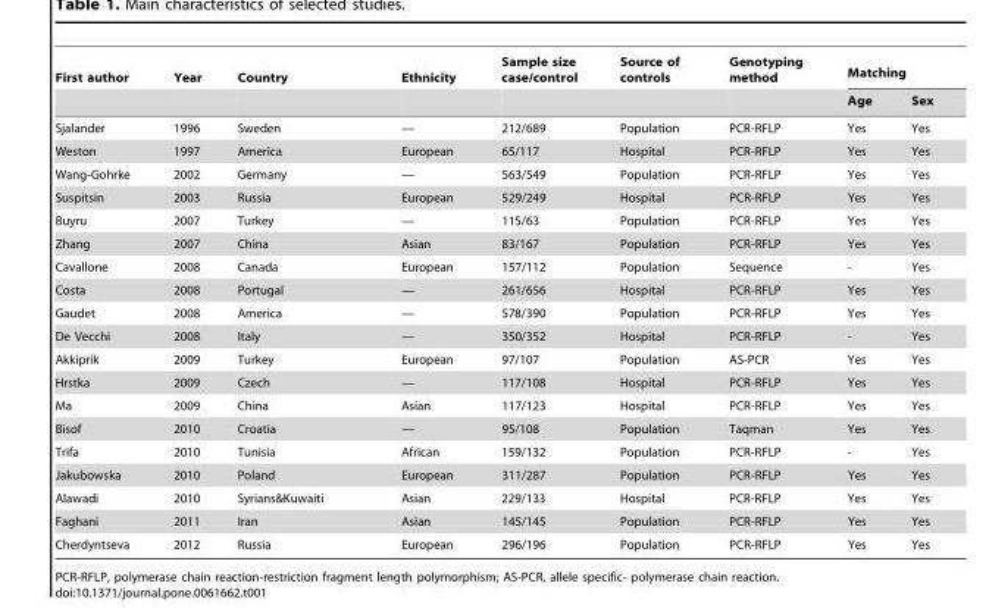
<table><thead><tr><td rowspan="2">First author</td><td rowspan="2">Year</td><td rowspan="2">Country</td><td rowspan="2">Ethnicity</td><td rowspan="2">Sample size case/control</td><td rowspan="2">Source of controls</td><td rowspan="2">Genotyping method</td><td colspan="2">Matching</td></tr><tr><td>Age</td><td>Sex</td></tr></thead><tbody><tr><td>Sjalander</td><td>1996</td><td>Sweden</td><td>—</td><td>212/689</td><td>Population</td><td>PCR-RFLP</td><td>Yes</td><td>Yes</td></tr><tr><td>Weston</td><td>1997</td><td>America</td><td>European</td><td>65/117</td><td>Hospital</td><td>PCR-RFLP</td><td>Yes</td><td>Yes</td></tr><tr><td>Wang-Gohrke</td><td>2002</td><td>Germany</td><td>—</td><td>563/549</td><td>Population</td><td>PCR-RFLP</td><td>Yes</td><td>Yes</td></tr><tr><td>Suspitsin</td><td>2003</td><td>Russia</td><td>European</td><td>529/249</td><td>Hospital</td><td>PCR-RFLP</td><td>Yes</td><td>Yes</td></tr><tr><td>Buyru</td><td>2007</td><td>Turkey</td><td>—</td><td>115/63</td><td>Population</td><td>PCR-RFLP</td><td>Yes</td><td>Yes</td></tr><tr><td>Zhang</td><td>2007</td><td>China</td><td>Asian</td><td>83/167</td><td>Population</td><td>PCR-RFLP</td><td>Yes</td><td>Yes</td></tr><tr><td>Cavallone</td><td>2008</td><td>Canada</td><td>European</td><td>157/112</td><td>Population</td><td>Sequence</td><td>-</td><td>Yes</td></tr><tr><td>Costa</td><td>2008</td><td>Portugal</td><td>—</td><td>261/656</td><td>Hospital</td><td>PCR-RFLP</td><td>Yes</td><td>Yes</td></tr><tr><td>Gaudet</td><td>2008</td><td>America</td><td>—</td><td>578/390</td><td>Population</td><td>PCR-RFLP</td><td>Yes</td><td>Yes</td></tr><tr><td>De Vecchi</td><td>2008</td><td>Italy</td><td>—</td><td>350/352</td><td>Hospital</td><td>PCR-RFLP</td><td>-</td><td>Yes</td></tr><tr><td>Akkiprik</td><td>2009</td><td>Turkey</td><td>European</td><td>97/107</td><td>Population</td><td>AS-PCR</td><td>Yes</td><td>Yes</td></tr><tr><td>Hrstka</td><td>2009</td><td>Czech</td><td>—</td><td>117/108</td><td>Hospital</td><td>PCR-RFLP</td><td>Yes</td><td>Yes</td></tr><tr><td>Ma</td><td>2009</td><td>China</td><td>Asian</td><td>117/123</td><td>Hospital</td><td>PCR-RFLP</td><td>Yes</td><td>Yes</td></tr><tr><td>Bisof</td><td>2010</td><td>Croatia</td><td>—</td><td>95/108</td><td>Population</td><td>Taqman</td><td>Yes</td><td>Yes</td></tr><tr><td>Trifa</td><td>2010</td><td>Tunisia</td><td>African</td><td>159/132</td><td>Population</td><td>PCR-RFLP</td><td>-</td><td>Yes</td></tr><tr><td>Jakubowska</td><td>2010</td><td>Poland</td><td>European</td><td>311/287</td><td>Population</td><td>PCR-RFLP</td><td>Yes</td><td>Yes</td></tr><tr><td>Alawadi</td><td>2010</td><td>Syrians&amp;Kuwaiti</td><td>Asian</td><td>229/133</td><td>Hospital</td><td>PCR-RFLP</td><td>Yes</td><td>Yes</td></tr><tr><td>Faghani</td><td>2011</td><td>Iran</td><td>Asian</td><td>145/145</td><td>Population</td><td>PCR-RFLP</td><td>Yes</td><td>Yes</td></tr><tr><td>Cherdyntseva</td><td>2012</td><td>Russia</td><td>European</td><td>296/196</td><td>Population</td><td>PCR-RFLP</td><td>Yes</td><td>Yes</td></tr></tbody></table>